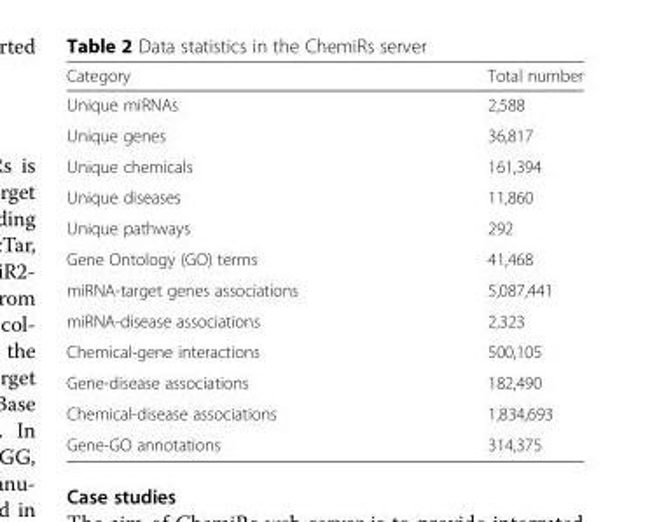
<table><thead><tr><td>Category</td><td>Total number</td></tr></thead><tbody><tr><td>Unique miRNAs</td><td>2,588</td></tr><tr><td>Unique genes</td><td>36,817</td></tr><tr><td>Unique chemicals</td><td>161,394</td></tr><tr><td>Unique diseases</td><td>11,860</td></tr><tr><td>Unique pathways</td><td>292</td></tr><tr><td>Gene Ontology (GO) terms</td><td>41,468</td></tr><tr><td>miRNA-target genes associations</td><td>5,087,441</td></tr><tr><td>miRNA-disease associations</td><td>2,323</td></tr><tr><td>Chemical-gene interactions</td><td>500,105</td></tr><tr><td>Gene-disease associations</td><td>182,490</td></tr><tr><td>Chemical-disease associations</td><td>1,834,693</td></tr><tr><td>Gene-GO annotations</td><td>314,375</td></tr></tbody></table>